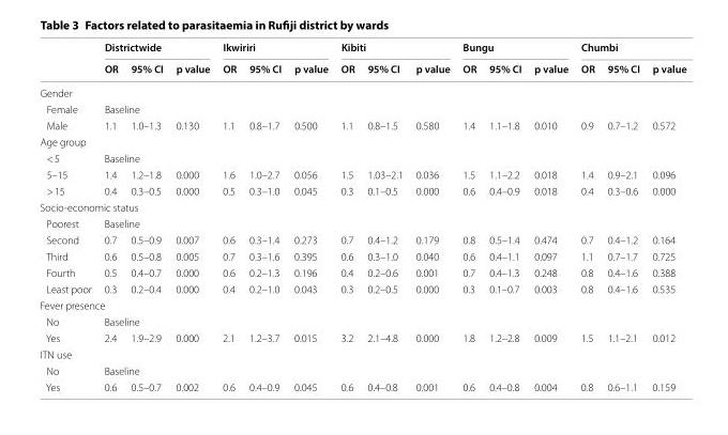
<table><thead><tr><td rowspan="2"></td><td colspan="3">Districtwide</td><td colspan="3">Ikwiriri</td><td colspan="3">Kibiti</td><td colspan="3">Bungu</td><td colspan="3">Chumbi</td></tr><tr><td>OR</td><td>95% CI</td><td>p value</td><td>OR</td><td>95% CI</td><td>p value</td><td>OR</td><td>95% CI</td><td>p value</td><td>OR</td><td>95% CI</td><td>p value</td><td>OR</td><td>95% CI</td><td>p value</td></tr></thead><tbody><tr><td colspan="16">Gender</td></tr><tr><td>Female</td><td colspan="14">Baseline</td><td></td></tr><tr><td>Male</td><td>1.1</td><td>1.0–1.3</td><td>0.130</td><td>1.1</td><td>0.8–1.7</td><td>0.500</td><td>1.1</td><td>0.8–1.5</td><td>0.580</td><td>1.4</td><td>1.1–1.8</td><td>0.010</td><td>0.9</td><td>0.7–1.2</td><td>0.572</td></tr><tr><td colspan="16">Age group</td></tr><tr><td>&lt; 5</td><td colspan="14">Baseline</td><td></td></tr><tr><td>5–15</td><td>1.4</td><td>1.2–1.8</td><td>0.000</td><td>1.6</td><td>1.0–2.7</td><td>0.056</td><td>1.5</td><td>1.03–2.1</td><td>0.036</td><td>1.5</td><td>1.1–2.2</td><td>0.018</td><td>1.4</td><td>0.9–2.1</td><td>0.096</td></tr><tr><td>&gt; 15</td><td>0.4</td><td>0.3–0.5</td><td>0.000</td><td>0.5</td><td>0.3–1.0</td><td>0.045</td><td>0.3</td><td>0.1–0.5</td><td>0.000</td><td>0.6</td><td>0.4–0.9</td><td>0.018</td><td>0.4</td><td>0.3–0.6</td><td>0.000</td></tr><tr><td colspan="16">Socio‑economic status</td></tr><tr><td>Poorest</td><td colspan="14">Baseline</td><td></td></tr><tr><td>Second</td><td>0.7</td><td>0.5–0.9</td><td>0.007</td><td>0.6</td><td>0.3–1.4</td><td>0.273</td><td>0.7</td><td>0.4–1.2</td><td>0.179</td><td>0.8</td><td>0.5–1.4</td><td>0.474</td><td>0.7</td><td>0.4–1.2</td><td>0.164</td></tr><tr><td>Third</td><td>0.6</td><td>0.5–0.8</td><td>0.005</td><td>0.7</td><td>0.3–1.6</td><td>0.395</td><td>0.6</td><td>0.3–1.0</td><td>0.040</td><td>0.6</td><td>0.4–1.1</td><td>0.097</td><td>1.1</td><td>0.7–1.7</td><td>0.725</td></tr><tr><td>Fourth</td><td>0.5</td><td>0.4–0.7</td><td>0.000</td><td>0.6</td><td>0.2–1.3</td><td>0.196</td><td>0.4</td><td>0.2–0.6</td><td>0.001</td><td>0.7</td><td>0.4–1.3</td><td>0.248</td><td>0.8</td><td>0.4–1.6</td><td>0.388</td></tr><tr><td>Least poor</td><td>0.3</td><td>0.2–0.4</td><td>0.000</td><td>0.4</td><td>0.2–1.0</td><td>0.043</td><td>0.3</td><td>0.2–0.5</td><td>0.000</td><td>0.3</td><td>0.1–0.7</td><td>0.003</td><td>0.8</td><td>0.4–1.6</td><td>0.535</td></tr><tr><td colspan="16">Fever presence</td></tr><tr><td>No</td><td colspan="14">Baseline</td><td></td></tr><tr><td>Yes</td><td>2.4</td><td>1.9–2.9</td><td>0.000</td><td>2.1</td><td>1.2–3.7</td><td>0.015</td><td>3.2</td><td>2.1–4.8</td><td>0.000</td><td>1.8</td><td>1.2–2.8</td><td>0.009</td><td>1.5</td><td>1.1–2.1</td><td>0.012</td></tr><tr><td colspan="16">ITN use</td></tr><tr><td>No</td><td colspan="14">Baseline</td><td></td></tr><tr><td>Yes</td><td>0.6</td><td>0.5–0.7</td><td>0.002</td><td>0.6</td><td>0.4–0.9</td><td>0.045</td><td>0.6</td><td>0.4–0.8</td><td>0.001</td><td>0.6</td><td>0.4–0.8</td><td>0.004</td><td>0.8</td><td>0.6–1.1</td><td>0.159</td></tr></tbody></table>